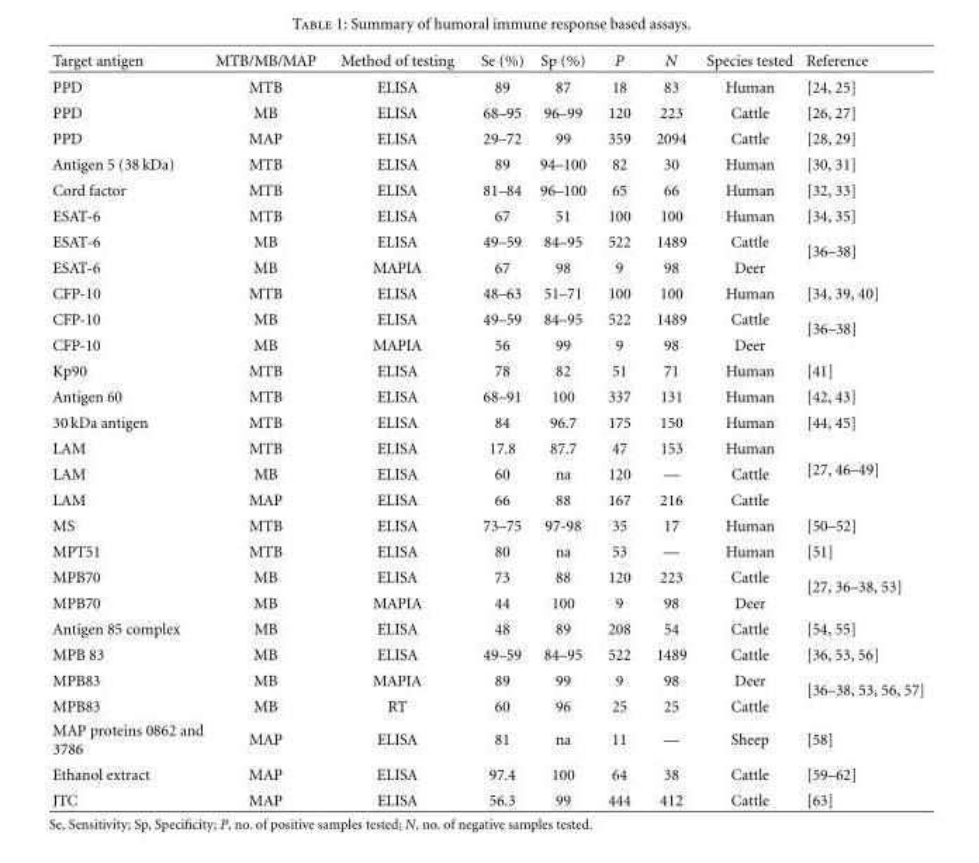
<table><thead><tr><td>Target antigen</td><td>MTB/MB/MAP</td><td>Method of testing</td><td>Se (%)</td><td>Sp (%)</td><td>P</td><td>N</td><td>Species tested</td><td>Reference</td></tr></thead><tbody><tr><td>PPD</td><td>MTB</td><td>ELISA</td><td>89</td><td>87</td><td>18</td><td>83</td><td>Human</td><td>[24, 25]</td></tr><tr><td>PPD</td><td>MB</td><td>ELISA</td><td>68–95</td><td>96–99</td><td>120</td><td>223</td><td>Cattle</td><td>[26, 27]</td></tr><tr><td>PPD</td><td>MAP</td><td>ELISA</td><td>29–72</td><td>99</td><td>359</td><td>2094</td><td>Cattle</td><td>[28, 29]</td></tr><tr><td>Antigen 5 (38 kDa)</td><td>MTB</td><td>ELISA</td><td>89</td><td>94–100</td><td>82</td><td>30</td><td>Human</td><td>[30, 31]</td></tr><tr><td>Cord factor</td><td>MTB</td><td>ELISA</td><td>81–84</td><td>96–100</td><td>65</td><td>66</td><td>Human</td><td>[32, 33]</td></tr><tr><td>ESAT-6</td><td>MTB</td><td>ELISA</td><td>67</td><td>51</td><td>100</td><td>100</td><td>Human</td><td>[34, 35]</td></tr><tr><td>ESAT-6</td><td>MB</td><td>ELISA</td><td>49–59</td><td>84–95</td><td>522</td><td>1489</td><td>Cattle</td><td rowspan="2">[36–38]</td></tr><tr><td>ESAT-6</td><td>MB</td><td>MAPIA</td><td>67</td><td>98</td><td>9</td><td>98</td><td>Deer</td></tr><tr><td>CFP-10</td><td>MTB</td><td>ELISA</td><td>48–63</td><td>51–71</td><td>100</td><td>100</td><td>Human</td><td>[34, 39, 40]</td></tr><tr><td>CFP-10</td><td>MB</td><td>ELISA</td><td>49–59</td><td>84–95</td><td>522</td><td>1489</td><td>Cattle</td><td rowspan="2">[36–38]</td></tr><tr><td>CFP-10</td><td>MB</td><td>MAPIA</td><td>56</td><td>99</td><td>9</td><td>98</td><td>Deer</td></tr><tr><td>Kp90</td><td>MTB</td><td>ELISA</td><td>78</td><td>82</td><td>51</td><td>71</td><td>Human</td><td>[41]</td></tr><tr><td>Antigen 60</td><td>MTB</td><td>ELISA</td><td>68–91</td><td>100</td><td>337</td><td>131</td><td>Human</td><td>[42, 43]</td></tr><tr><td>30 kDa antigen</td><td>MTB</td><td>ELISA</td><td>84</td><td>96.7</td><td>175</td><td>150</td><td>Human</td><td>[44, 45]</td></tr><tr><td>LAM</td><td>MTB</td><td>ELISA</td><td>17.8</td><td>87.7</td><td>47</td><td>153</td><td>Human</td><td rowspan="3">[27, 46–49]</td></tr><tr><td>LAM</td><td>MB</td><td>ELISA</td><td>60</td><td>na</td><td>120</td><td>—</td><td>Cattle</td></tr><tr><td>LAM</td><td>MAP</td><td>ELISA</td><td>66</td><td>88</td><td>167</td><td>216</td><td>Cattle</td></tr><tr><td>MS</td><td>MTB</td><td>ELISA</td><td>73–75</td><td>97-98</td><td>35</td><td>17</td><td>Human</td><td>[50–52]</td></tr><tr><td>MPT51</td><td>MTB</td><td>ELISA</td><td>80</td><td>na</td><td>53</td><td>—</td><td>Human</td><td>[51]</td></tr><tr><td>MPB70</td><td>MB</td><td>ELISA</td><td>73</td><td>88</td><td>120</td><td>223</td><td>Cattle</td><td rowspan="2">[27, 36–38, 53]</td></tr><tr><td>MPB70</td><td>MB</td><td>MAPIA</td><td>44</td><td>100</td><td>9</td><td>98</td><td>Deer</td></tr><tr><td>Antigen 85 complex</td><td>MB</td><td>ELISA</td><td>48</td><td>89</td><td>208</td><td>54</td><td>Cattle</td><td>[54, 55]</td></tr><tr><td>MPB 83</td><td>MB</td><td>ELISA</td><td>49–59</td><td>84–95</td><td>522</td><td>1489</td><td>Cattle</td><td>[36, 53, 56]</td></tr><tr><td>MPB83</td><td>MB</td><td>MAPIA</td><td>89</td><td>99</td><td>9</td><td>98</td><td>Deer</td><td rowspan="2">[36–38, 53, 56, 57]</td></tr><tr><td>MPB83</td><td>MB</td><td>RT</td><td>60</td><td>96</td><td>25</td><td>25</td><td>Cattle</td></tr><tr><td>MAP proteins 0862 and 3786</td><td>MAP</td><td>ELISA</td><td>81</td><td>na</td><td>11</td><td>—</td><td>Sheep</td><td>[58]</td></tr><tr><td>Ethanol extract</td><td>MAP</td><td>ELISA</td><td>97.4</td><td>100</td><td>64</td><td>38</td><td>Cattle</td><td>[59–62]</td></tr><tr><td>JTC</td><td>MAP</td><td>ELISA</td><td>56.3</td><td>99</td><td>444</td><td>412</td><td>Cattle</td><td>[63]</td></tr></tbody></table>